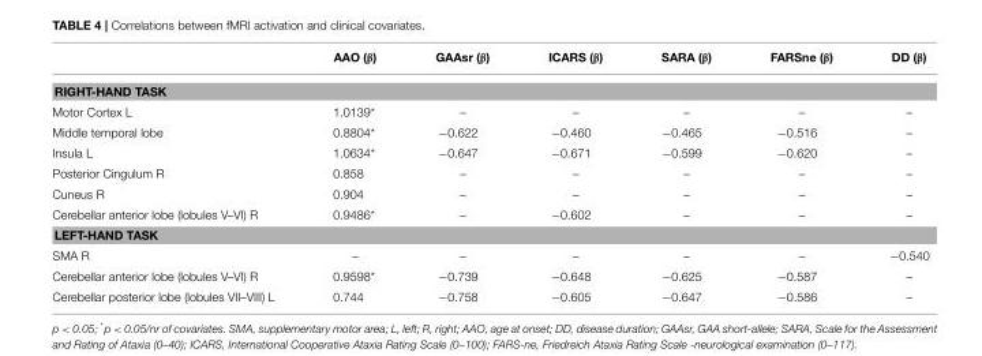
<table><thead><tr><td></td><td>AAO (β)</td><td>GAAsr (β)</td><td>ICARS (β)</td><td>SARA (β)</td><td>FARSne (β)</td><td>DD (β)</td></tr></thead><tbody><tr><td colspan="7">RIGHT-HAND TASK</td></tr><tr><td>Motor Cortex L</td><td>1.0139*</td><td>–</td><td>–</td><td>–</td><td>–</td><td>–</td></tr><tr><td>Middle temporal lobe</td><td>0.8804*</td><td>−0.622</td><td>−0.460</td><td>−0.465</td><td>−0.516</td><td>–</td></tr><tr><td>Insula L</td><td>1.0634*</td><td>−0.647</td><td>−0.671</td><td>−0.599</td><td>−0.620</td><td>–</td></tr><tr><td>Posterior Cingulum R</td><td>0.858</td><td>–</td><td>–</td><td>–</td><td>–</td><td>–</td></tr><tr><td>Cuneus R</td><td>0.904</td><td>–</td><td>–</td><td>–</td><td>–</td><td>–</td></tr><tr><td>Cerebellar anterior lobe (lobules V–VI) R</td><td>0.9486*</td><td>–</td><td>−0.602</td><td>–</td><td>–</td><td>–</td></tr><tr><td colspan="7">LEFT-HAND TASK</td></tr><tr><td>SMA R</td><td>–</td><td>–</td><td>–</td><td>–</td><td>–</td><td>−0.540</td></tr><tr><td>Cerebellar anterior lobe (lobules V–VI) R</td><td>0.9598*</td><td>−0.739</td><td>−0.648</td><td>−0.625</td><td>−0.587</td><td>–</td></tr><tr><td>Cerebellar posterior lobe (lobules VII–VIII) L</td><td>0.744</td><td>−0.758</td><td>−0.605</td><td>−0.647</td><td>−0.586</td><td>–</td></tr></tbody></table>